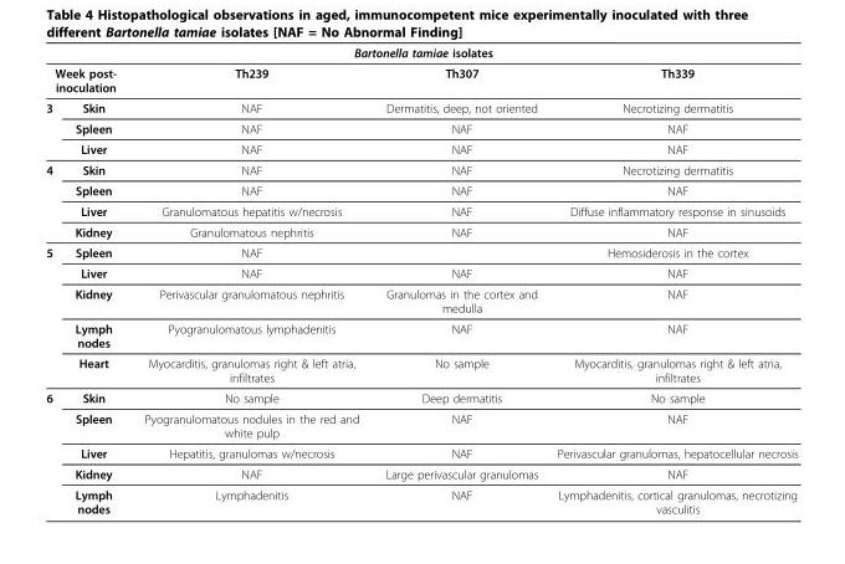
<table><thead><tr><td colspan="5">Bartonella tamiae isolates</td></tr><tr><td colspan="2">Week post- inoculation</td><td rowspan="2">Th239 NAF</td><td rowspan="2">Th307 Dermatitis, deep, not oriented</td><td rowspan="2">Th339 Necrotizing dermatitis</td></tr><tr><td>3</td><td>Skin</td></tr></thead><tbody><tr><td></td><td>Spleen</td><td>NAF</td><td>NAF</td><td>NAF</td></tr><tr><td></td><td>Liver</td><td>NAF</td><td>NAF</td><td>NAF</td></tr><tr><td rowspan="4">4</td><td>Skin</td><td>NAF</td><td>NAF</td><td>Necrotizing dermatitis</td></tr><tr><td>Spleen</td><td>NAF</td><td>NAF</td><td>NAF</td></tr><tr><td>Liver</td><td>Granulomatous hepatitis w/necrosis</td><td>NAF</td><td>Diffuse inflammatory response in sinusoids</td></tr><tr><td>Kidney</td><td>Granulomatous nephritis</td><td>NAF</td><td>NAF</td></tr><tr><td rowspan="5">5</td><td>Spleen</td><td>NAF</td><td></td><td>Hemosiderosis in the cortex</td></tr><tr><td>Liver</td><td>NAF</td><td>NAF</td><td>NAF</td></tr><tr><td>Kidney</td><td>Perivascular granulomatous nephritis</td><td>Granulomas in the cortex and medulla</td><td>NAF</td></tr><tr><td>Lymph nodes</td><td>Pyogranulomatous lymphadenitis</td><td>NAF</td><td>NAF</td></tr><tr><td>Heart</td><td>Myocarditis, granulomas right &amp; left atria, infiltrates</td><td>No sample</td><td>Myocarditis, granulomas right &amp; left atria, infiltrates</td></tr><tr><td rowspan="5">6</td><td>Skin</td><td>No sample</td><td>Deep dermatitis</td><td>No sample</td></tr><tr><td>Spleen</td><td>Pyogranulomatous nodules in the red and white pulp</td><td>NAF</td><td>NAF</td></tr><tr><td>Liver</td><td>Hepatitis, granulomas w/necrosis</td><td>NAF</td><td>Perivascular granulomas, hepatocellular necrosis</td></tr><tr><td>Kidney</td><td>NAF</td><td>Large perivascular granulomas</td><td>NAF</td></tr><tr><td>Lymph nodes</td><td>Lymphadenitis</td><td>NAF</td><td>Lymphadenitis, cortical granulomas, necrotizing vasculitis</td></tr></tbody></table>